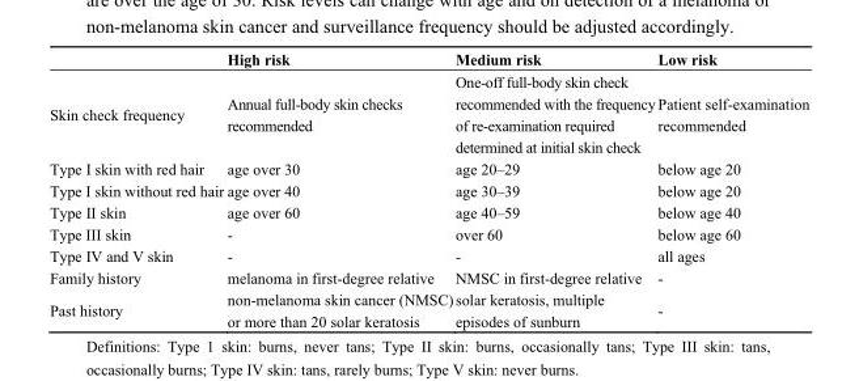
<table><thead><tr><td></td><td>High risk</td><td>Medium risk</td><td>Low risk</td></tr></thead><tbody><tr><td>Skin check frequency</td><td>Annual full-body skin checks recommended</td><td>One-off full-body skin check recommended with the frequency of re-examination required determined at initial skin check</td><td>Patient self-examination recommended</td></tr><tr><td>Type I skin with red hair</td><td>age over 30</td><td>age 20–29</td><td>below age 20</td></tr><tr><td>Type I skin without red hair</td><td>age over 40</td><td>age 30–39</td><td>below age 20</td></tr><tr><td>Type II skin</td><td>age over 60</td><td>age 40–59</td><td>below age 40</td></tr><tr><td>Type III skin</td><td>-</td><td>over 60</td><td>below age 60</td></tr><tr><td>Type IV and V skin</td><td>-</td><td>-</td><td>all ages</td></tr><tr><td>Family history</td><td>melanoma in first-degree relative</td><td>NMSC in first-degree relative</td><td>-</td></tr><tr><td>Past history</td><td>non-melanoma skin cancer (NMSC) or more than 20 solar keratosis</td><td>solar keratosis, multiple episodes of sunburn</td><td>-</td></tr></tbody></table>